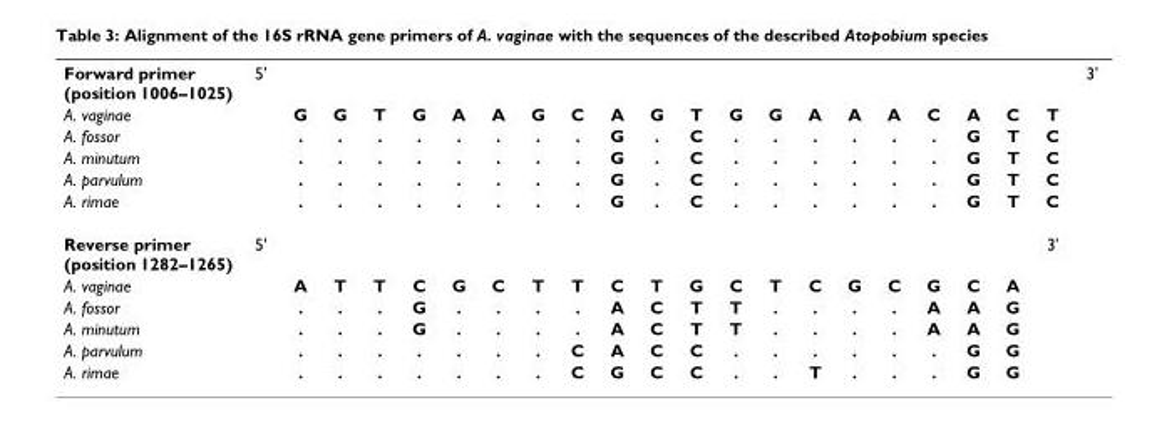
<table><tbody><tr><td>Forward primer (position 1006–1025)</td><td>5&#x27;</td><td></td><td></td><td></td><td></td><td></td><td></td><td></td><td></td><td></td><td></td><td></td><td></td><td></td><td></td><td></td><td></td><td></td><td></td><td></td><td></td><td>3&#x27;</td></tr><tr><td>A. vaginae</td><td></td><td>G</td><td>G</td><td>T</td><td>G</td><td>A</td><td>A</td><td>G</td><td>C</td><td>A</td><td>G</td><td>T</td><td>G</td><td>G</td><td>A</td><td>A</td><td>A</td><td>C</td><td>A</td><td>C</td><td>T</td><td></td></tr><tr><td>A. fossor</td><td></td><td>.</td><td>.</td><td>.</td><td>.</td><td>.</td><td>.</td><td>.</td><td>.</td><td>G</td><td>.</td><td>C</td><td>.</td><td>.</td><td>.</td><td>.</td><td>.</td><td>.</td><td>G</td><td>T</td><td>C</td><td></td></tr><tr><td>A. minutum</td><td></td><td>.</td><td>.</td><td>.</td><td>.</td><td>.</td><td>.</td><td>.</td><td>.</td><td>G</td><td>.</td><td>C</td><td>.</td><td>.</td><td>.</td><td>.</td><td>.</td><td>.</td><td>G</td><td>T</td><td>C</td><td></td></tr><tr><td>A. parvulum</td><td></td><td>.</td><td>.</td><td>.</td><td>.</td><td>.</td><td>.</td><td>.</td><td>.</td><td>G</td><td>.</td><td>C</td><td>.</td><td>.</td><td>.</td><td>.</td><td>.</td><td>.</td><td>G</td><td>T</td><td>C</td><td></td></tr><tr><td>A. rimae</td><td></td><td>.</td><td>.</td><td>.</td><td>.</td><td>.</td><td>.</td><td>.</td><td>.</td><td>G</td><td>.</td><td>C</td><td>.</td><td>.</td><td>.</td><td>.</td><td>.</td><td>.</td><td>G</td><td>T</td><td>C</td><td></td></tr><tr><td>Reverse primer (position 1282–1265)</td><td>5&#x27;</td><td></td><td></td><td></td><td></td><td></td><td></td><td></td><td></td><td></td><td></td><td></td><td></td><td></td><td></td><td></td><td></td><td></td><td></td><td></td><td>3&#x27;</td><td></td></tr><tr><td>A. vaginae</td><td></td><td>A</td><td>T</td><td>T</td><td>C</td><td>G</td><td>C</td><td>T</td><td>T</td><td>C</td><td>T</td><td>G</td><td>C</td><td>T</td><td>C</td><td>G</td><td>C</td><td>G</td><td>C</td><td>A</td><td></td><td></td></tr><tr><td>A. fossor</td><td></td><td>.</td><td>.</td><td>.</td><td>G</td><td>.</td><td>.</td><td>.</td><td>.</td><td>A</td><td>C</td><td>T</td><td>T</td><td>.</td><td>.</td><td>.</td><td>.</td><td>A</td><td>A</td><td>G</td><td></td><td></td></tr><tr><td>A. minutum</td><td></td><td>.</td><td>.</td><td>.</td><td>G</td><td>.</td><td>.</td><td>.</td><td>.</td><td>A</td><td>C</td><td>T</td><td>T</td><td>.</td><td>.</td><td>.</td><td>.</td><td>A</td><td>A</td><td>G</td><td></td><td></td></tr><tr><td>A. parvulum</td><td></td><td>.</td><td>.</td><td>.</td><td>.</td><td>.</td><td>.</td><td>.</td><td>C</td><td>A</td><td>C</td><td>C</td><td>.</td><td>.</td><td>.</td><td>.</td><td>.</td><td>.</td><td>G</td><td>G</td><td></td><td></td></tr><tr><td>A. rimae</td><td></td><td>.</td><td>.</td><td>.</td><td>.</td><td>.</td><td>.</td><td>.</td><td>C</td><td>G</td><td>C</td><td>C</td><td>.</td><td>.</td><td>T</td><td>.</td><td>.</td><td>.</td><td>G</td><td>G</td><td></td><td></td></tr></tbody></table>